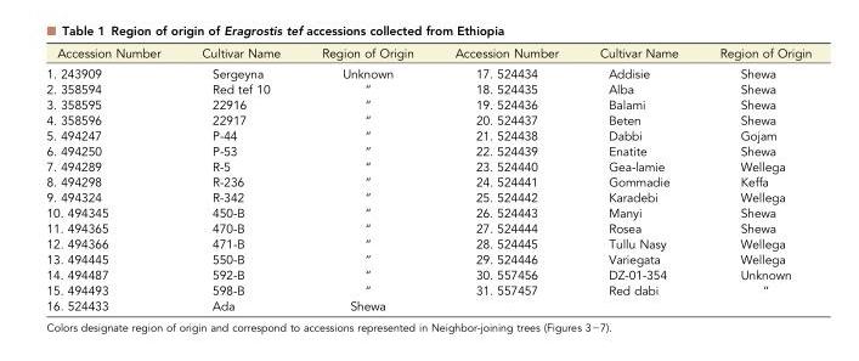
<table><thead><tr><td>Accession Number</td><td>Cultivar Name</td><td>Region of Origin</td><td>Accession Number</td><td>Cultivar Name</td><td>Region of Origin</td></tr></thead><tbody><tr><td>1. 243909</td><td>Sergeyna</td><td>Unknown</td><td>17. 524434</td><td>Addisie</td><td>Shewa</td></tr><tr><td>2. 358594</td><td>Red tef 10</td><td>“</td><td>18. 524435</td><td>Alba</td><td>Shewa</td></tr><tr><td>3. 358595</td><td>22916</td><td>“</td><td>19. 524436</td><td>Balami</td><td>Shewa</td></tr><tr><td>4. 358596</td><td>22917</td><td>“</td><td>20. 524437</td><td>Beten</td><td>Shewa</td></tr><tr><td>5. 494247</td><td>P-44</td><td>“</td><td>21. 524438</td><td>Dabbi</td><td>Gojam</td></tr><tr><td>6. 494250</td><td>P-53</td><td>“</td><td>22. 524439</td><td>Enatite</td><td>Shewa</td></tr><tr><td>7. 494289</td><td>R-5</td><td>“</td><td>23. 524440</td><td>Gea-lamie</td><td>Wellega</td></tr><tr><td>8. 494298</td><td>R-236</td><td>“</td><td>24. 524441</td><td>Gommadie</td><td>Keffa</td></tr><tr><td>9. 494324</td><td>R-342</td><td>“</td><td>25. 524442</td><td>Karadebi</td><td>Wellega</td></tr><tr><td>10. 494345</td><td>450-B</td><td>“</td><td>26. 524443</td><td>Manyi</td><td>Shewa</td></tr><tr><td>11. 494365</td><td>470-B</td><td>“</td><td>27. 524444</td><td>Rosea</td><td>Shewa</td></tr><tr><td>12. 494366</td><td>471-B</td><td>“</td><td>28. 524445</td><td>Tullu Nasy</td><td>Wellega</td></tr><tr><td>13. 494445</td><td>550-B</td><td>“</td><td>29. 524446</td><td>Variegata</td><td>Wellega</td></tr><tr><td>14. 494487</td><td>592-B</td><td>“</td><td>30. 557456</td><td>DZ-01-354</td><td>Unknown</td></tr><tr><td>15. 494493</td><td>598-B</td><td>“</td><td>31. 557457</td><td>Red dabi</td><td>“</td></tr><tr><td>16. 524433</td><td>Ada</td><td>Shewa</td><td></td><td></td><td></td></tr></tbody></table>